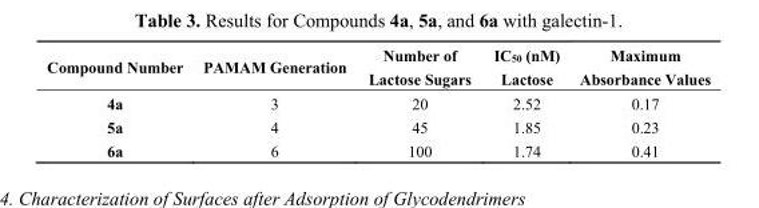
<table><thead><tr><td>Compound Number</td><td>PAMAM Generation</td><td>Number of Lactose Sugars</td><td>IC<sub>50</sub> (nM) Lactose</td><td>Maximum Absorbance Values</td></tr></thead><tbody><tr><td>4a</td><td>3</td><td>20</td><td>2.52</td><td>0.17</td></tr><tr><td>5a</td><td>4</td><td>45</td><td>1.85</td><td>0.23</td></tr><tr><td>6a</td><td>6</td><td>100</td><td>1.74</td><td>0.41</td></tr></tbody></table>